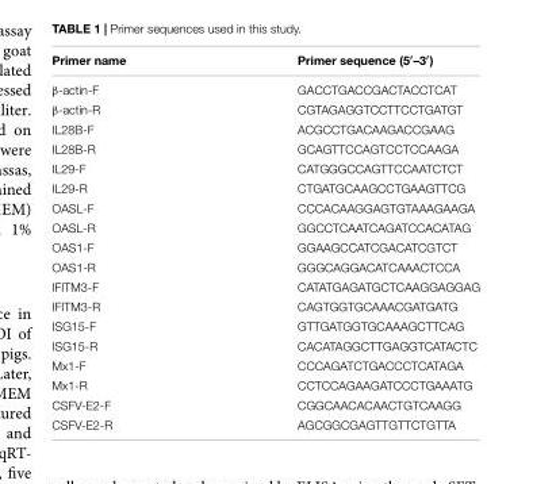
<table><thead><tr><td>Primer name</td><td>Primer sequence (5′–3′)</td></tr></thead><tbody><tr><td>β-actin-F</td><td>GACCTGACCGACTACCTCAT</td></tr><tr><td>β-actin-R</td><td>CGTAGAGGTCCTTCCTGATGT</td></tr><tr><td>IL28B-F</td><td>ACGCCTGACAAGACCGAAG</td></tr><tr><td>IL28B-R</td><td>GCAGTTCCAGTCCTCCAAGA</td></tr><tr><td>IL29-F</td><td>CATGGGCCAGTTCCAATCTCT</td></tr><tr><td>IL29-R</td><td>CTGATGCAAGCCTGAAGTTCG</td></tr><tr><td>OASL-F</td><td>CCCACAAGGAGTGTAAAGAAGA</td></tr><tr><td>OASL-R</td><td>GGCCTCAATCAGATCCACATAG</td></tr><tr><td>OAS1-F</td><td>GGAAGCCATCGACATCGTCT</td></tr><tr><td>OAS1-R</td><td>GGGCAGGACATCAAACTCCA</td></tr><tr><td>IFITM3-F</td><td>CATATGAGATGCTCAAGGAGGAG</td></tr><tr><td>IFITM3-R</td><td>CAGTGGTGCAAACGATGATG</td></tr><tr><td>ISG15-F</td><td>GTTGATGGTGCAAAGCTTCAG</td></tr><tr><td>ISG15-R</td><td>CACATAGGCTTGAGGTCATACTC</td></tr><tr><td>Mx1-F</td><td>CCCAGATCTGACCCTCATAGA</td></tr><tr><td>Mx1-R</td><td>CCTCCAGAAGATCCCTGAAATG</td></tr><tr><td>CSFV-E2-F</td><td>CGGCAACACAACTGTCAAGG</td></tr><tr><td>CSFV-E2-R</td><td>AGCGGCGAGTTGTTCTGTTA</td></tr></tbody></table>